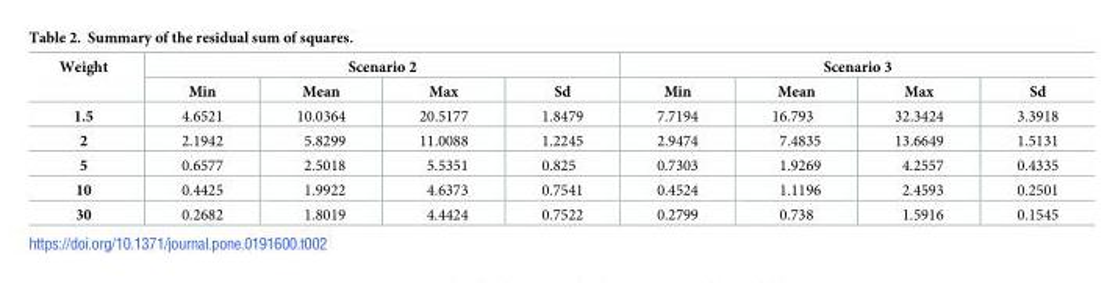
<table><thead><tr><td rowspan="2">Weight</td><td colspan="4">Scenario 2</td><td colspan="4">Scenario 3</td></tr><tr><td>Min</td><td>Mean</td><td>Max</td><td>Sd</td><td>Min</td><td>Mean</td><td>Max</td><td>Sd</td></tr></thead><tbody><tr><td>1.5</td><td>4.6521</td><td>10.0364</td><td>20.5177</td><td>1.8479</td><td>7.7194</td><td>16.793</td><td>32.3424</td><td>3.3918</td></tr><tr><td>2</td><td>2.1942</td><td>5.8299</td><td>11.0088</td><td>1.2245</td><td>2.9474</td><td>7.4835</td><td>13.6649</td><td>1.5131</td></tr><tr><td>5</td><td>0.6577</td><td>2.5018</td><td>5.5351</td><td>0.825</td><td>0.7303</td><td>1.9269</td><td>4.2557</td><td>0.4335</td></tr><tr><td>10</td><td>0.4425</td><td>1.9922</td><td>4.6373</td><td>0.7541</td><td>0.4524</td><td>1.1196</td><td>2.4593</td><td>0.2501</td></tr><tr><td>30</td><td>0.2682</td><td>1.8019</td><td>4.4424</td><td>0.7522</td><td>0.2799</td><td>0.738</td><td>1.5916</td><td>0.1545</td></tr></tbody></table>